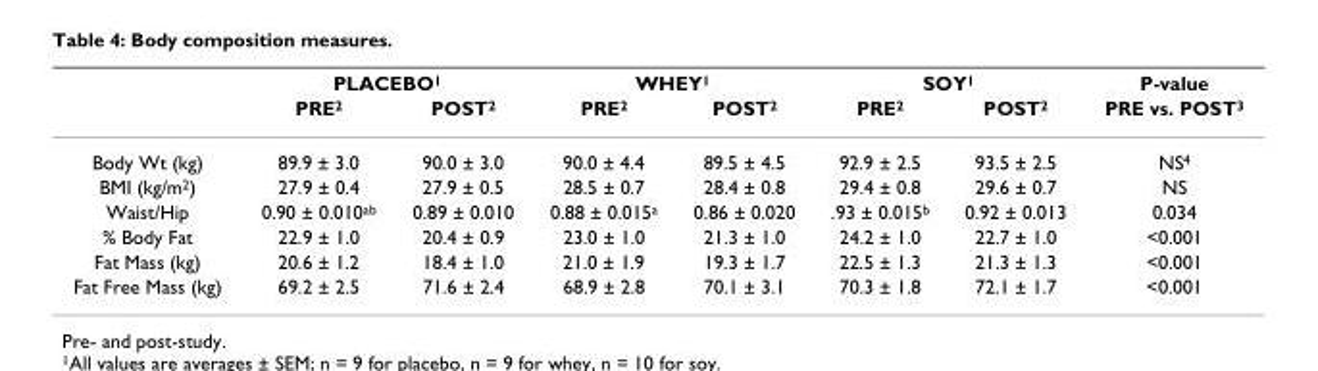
<table><thead><tr><td rowspan="2"></td><td colspan="2">PLACEBO<sup>1</sup></td><td colspan="2">WHEY<sup>1</sup></td><td colspan="2">SOY<sup>1</sup></td><td rowspan="2">P-value PRE vs. POST<sup>3</sup></td></tr><tr><td>PRE<sup>2</sup></td><td>POST<sup>2</sup></td><td>PRE<sup>2</sup></td><td>POST<sup>2</sup></td><td>PRE<sup>2</sup></td><td>POST<sup>2</sup></td></tr></thead><tbody><tr><td>Body Wt (kg)</td><td>89.9 ± 3.0</td><td>90.0 ± 3.0</td><td>90.0 ± 4.4</td><td>89.5 ± 4.5</td><td>92.9 ± 2.5</td><td>93.5 ± 2.5</td><td>NS<sup>4</sup></td></tr><tr><td>BMI (kg/m<sup>2</sup>)</td><td>27.9 ± 0.4</td><td>27.9 ± 0.5</td><td>28.5 ± 0.7</td><td>28.4 ± 0.8</td><td>29.4 ± 0.8</td><td>29.6 ± 0.7</td><td>NS</td></tr><tr><td>Waist/Hip</td><td>0.90 ± 0.010<sup>ab</sup></td><td>0.89 ± 0.010</td><td>0.88 ± 0.015<sup>a</sup></td><td>0.86 ± 0.020</td><td>.93 ± 0.015<sup>b</sup></td><td>0.92 ± 0.013</td><td>0.034</td></tr><tr><td>% Body Fat</td><td>22.9 ± 1.0</td><td>20.4 ± 0.9</td><td>23.0 ± 1.0</td><td>21.3 ± 1.0</td><td>24.2 ± 1.0</td><td>22.7 ± 1.0</td><td>&lt;0.001</td></tr><tr><td>Fat Mass (kg)</td><td>20.6 ± 1.2</td><td>18.4 ± 1.0</td><td>21.0 ± 1.9</td><td>19.3 ± 1.7</td><td>22.5 ± 1.3</td><td>21.3 ± 1.3</td><td>&lt;0.001</td></tr><tr><td>Fat Free Mass (kg)</td><td>69.2 ± 2.5</td><td>71.6 ± 2.4</td><td>68.9 ± 2.8</td><td>70.1 ± 3.1</td><td>70.3 ± 1.8</td><td>72.1 ± 1.7</td><td>&lt;0.001</td></tr></tbody></table>